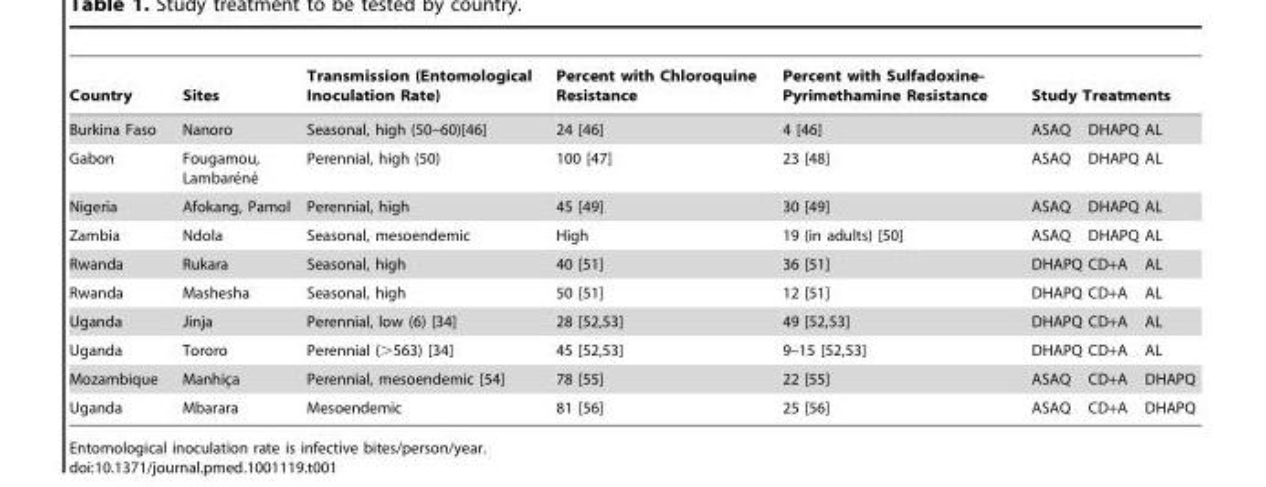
<table><thead><tr><td rowspan="2">Country Burkina Faso</td><td rowspan="2">Sites Nanoro</td><td rowspan="2">Transmission (Entomological Inoculation Rate) Seasonal, high (50–60)[46]</td><td rowspan="2">Percent with Chloroquine Resistance 24 [46]</td><td rowspan="2">Percent with Sulfadoxine- Pyrimethamine Resistance 4 [46]</td><td colspan="3">Study Treatments</td></tr><tr><td>ASAQ</td><td>DHAPQ</td><td>AL</td></tr></thead><tbody><tr><td>Gabon</td><td>Fougamou, Lambare´ne´</td><td>Perennial, high (50)</td><td>100 [47]</td><td>23 [48]</td><td>ASAQ</td><td>DHAPQ</td><td>AL</td></tr><tr><td>Nigeria</td><td>Afokang, Pamol</td><td>Perennial, high</td><td>45 [49]</td><td>30 [49]</td><td>ASAQ</td><td>DHAPQ</td><td>AL</td></tr><tr><td>Zambia</td><td>Ndola</td><td>Seasonal, mesoendemic</td><td>High</td><td>19 (in adults) [50]</td><td>ASAQ</td><td>DHAPQ</td><td>AL</td></tr><tr><td>Rwanda</td><td>Rukara</td><td>Seasonal, high</td><td>40 [51]</td><td>36 [51]</td><td>DHAPQ</td><td>CD+A</td><td>AL</td></tr><tr><td>Rwanda</td><td>Mashesha</td><td>Seasonal, high</td><td>50 [51]</td><td>12 [51]</td><td>DHAPQ</td><td>CD+A</td><td>AL</td></tr><tr><td>Uganda</td><td>Jinja</td><td>Perennial, low (6) [34]</td><td>28 [52,53]</td><td>49 [52,53]</td><td>DHAPQ</td><td>CD+A</td><td>AL</td></tr><tr><td>Uganda</td><td>Tororo</td><td>Perennial (&gt;563) [34]</td><td>45 [52,53]</td><td>9–15 [52,53]</td><td>DHAPQ</td><td>CD+A</td><td>AL</td></tr><tr><td>Mozambique</td><td>Manhic¸a</td><td>Perennial, mesoendemic [54]</td><td>78 [55]</td><td>22 [55]</td><td>ASAQ</td><td>CD+A</td><td>DHAPQ</td></tr><tr><td>Uganda</td><td>Mbarara</td><td>Mesoendemic</td><td>81 [56]</td><td>25 [56]</td><td>ASAQ</td><td>CD+A</td><td>DHAPQ</td></tr></tbody></table>